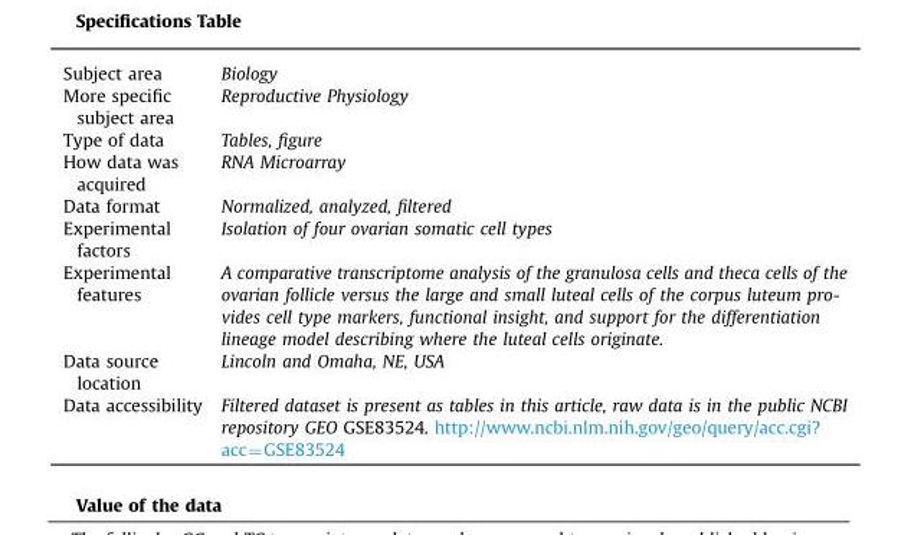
<table><tbody><tr><td>Subject area</td><td>Biology</td></tr><tr><td>More specific subject area</td><td>Reproductive Physiology</td></tr><tr><td>Type of data</td><td>Tables, figure</td></tr><tr><td>How data was acquired</td><td>RNA Microarray</td></tr><tr><td>Data format</td><td>Normalized, analyzed, filtered</td></tr><tr><td>Experimental factors</td><td>Isolation of four ovarian somatic cell types</td></tr><tr><td>Experimental features</td><td>A comparative transcriptome analysis of the granulosa cells and theca cells of the ovarian follicle versus the large and small luteal cells of the corpus luteum pro- vides cell type markers, functional insight, and support for the differentiation lineage model describing where the luteal cells originate.</td></tr><tr><td>Data source location</td><td>Lincoln and Omaha, NE, USA</td></tr><tr><td>Data accessibility</td><td>Filtered dataset is present as tables in this article, raw data is in the public NCBI repository GEO GSE83524. http://www.ncbi.nlm.nih.gov/geo/query/acc.cgi? acc=GSE83524</td></tr></tbody></table>